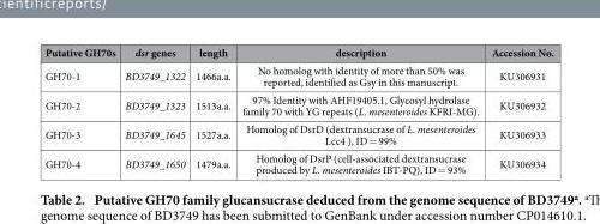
<table><thead><tr><td>Putative GH70s</td><td>dsr genes</td><td>length</td><td>description</td><td>Accession No.</td></tr></thead><tbody><tr><td>GH70-1</td><td>BD3749_1322</td><td>1466a.a.</td><td>No homolog with identity of more than 50% was reported, identified as Gsy in this manuscript.</td><td>KU306931</td></tr><tr><td>GH70-2</td><td>BD3749_1323</td><td>1513a.a.</td><td>97% Identity with AHF19405.1, Glycosyl hydrolase family 70 with YG repeats (L. mesenteroides KFRI-MG).</td><td>KU306932</td></tr><tr><td>GH70-3</td><td>BD3749_1645</td><td>1527a.a.</td><td>Homolog of DsrD (dextransucrase of L. mesenteroides Lcc4 ), ID = 99%</td><td>KU306933</td></tr><tr><td>GH70-4</td><td>BD3749_1650</td><td>1479a.a.</td><td>Homolog of DsrP (cell-associated dextransucrase produced by L. mesenteroides IBT-PQ), ID = 93%</td><td>KU306934</td></tr></tbody></table>